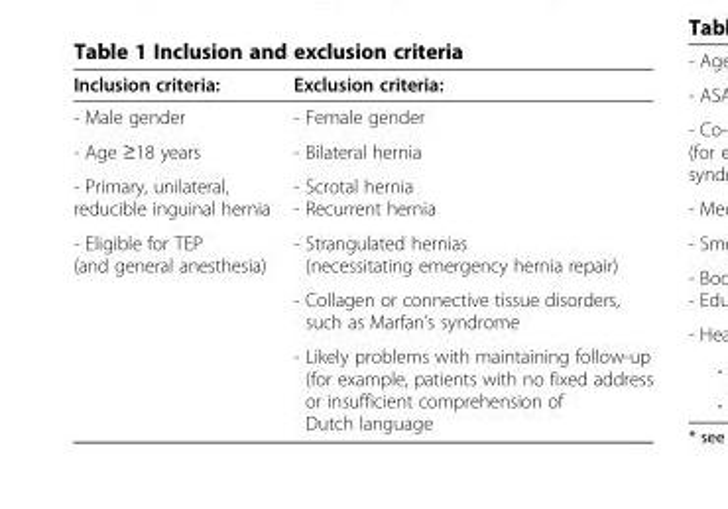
<table><thead><tr><td>Inclusion criteria:</td><td>Exclusion criteria:</td></tr></thead><tbody><tr><td>- Male gender</td><td>- Female gender</td></tr><tr><td>- Age ≥18 years</td><td>- Bilateral hernia</td></tr><tr><td>- Primary, unilateral, reducible inguinal hernia</td><td>- Scrotal hernia - Recurrent hernia</td></tr><tr><td rowspan="3">- Eligible for TEP (and general anesthesia)</td><td>- Strangulated hernias (necessitating emergency hernia repair)</td></tr><tr><td>- Collagen or connective tissue disorders, such as Marfan’s syndrome</td></tr><tr><td>- Likely problems with maintaining follow-up (for example, patients with no fixed address or insufficient comprehension of Dutch language</td></tr></tbody></table>